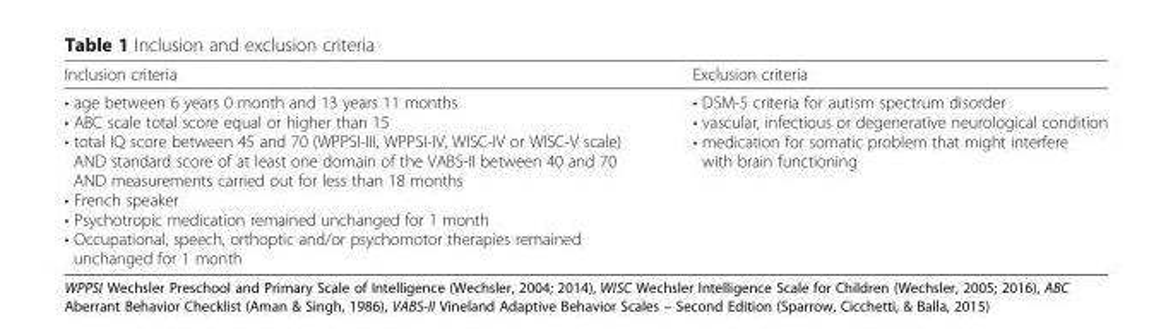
<table><thead><tr><td>Inclusion criteria</td><td>Exclusion criteria</td></tr></thead><tbody><tr><td>• age between 6 years 0 month and 13 years 11 months • ABC scale total score equal or higher than 15 • total IQ score between 45 and 70 (WPPSI-III, WPPSI-IV, WISC-IV or WISC-V scale) AND standard score of at least one domain of the VABS-II between 40 and 70 AND measurements carried out for less than 18 months • French speaker • Psychotropic medication remained unchanged for 1 month • Occupational, speech, orthoptic and/or psychomotor therapies remained unchanged for 1 month</td><td>• DSM-5 criteria for autism spectrum disorder • vascular, infectious or degenerative neurological condition • medication for somatic problem that might interfere with brain functioning</td></tr></tbody></table>